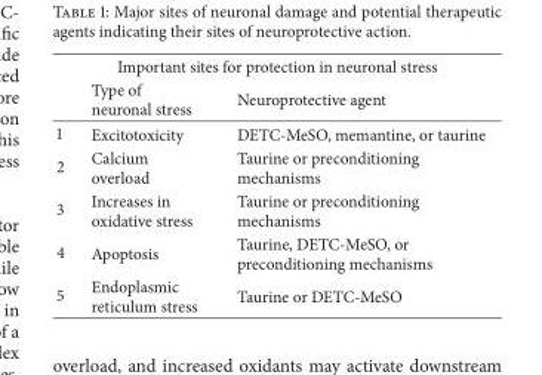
<table><thead><tr><td colspan="3">Important sites for protection in neuronal stress</td></tr><tr><td></td><td>Type of neuronal stress</td><td>Neuroprotective agent</td></tr></thead><tbody><tr><td>1</td><td>Excitotoxicity</td><td>DETC-MeSO, memantine, or taurine</td></tr><tr><td>2</td><td>Calcium overload</td><td>Taurine or preconditioning mechanisms</td></tr><tr><td>3</td><td>Increases in oxidative stress</td><td>Taurine or preconditioning mechanisms</td></tr><tr><td>4</td><td>Apoptosis</td><td>Taurine, DETC-MeSO, or preconditioning mechanisms</td></tr><tr><td>5</td><td>Endoplasmic reticulum stress</td><td>Taurine or DETC-MeSO</td></tr></tbody></table>